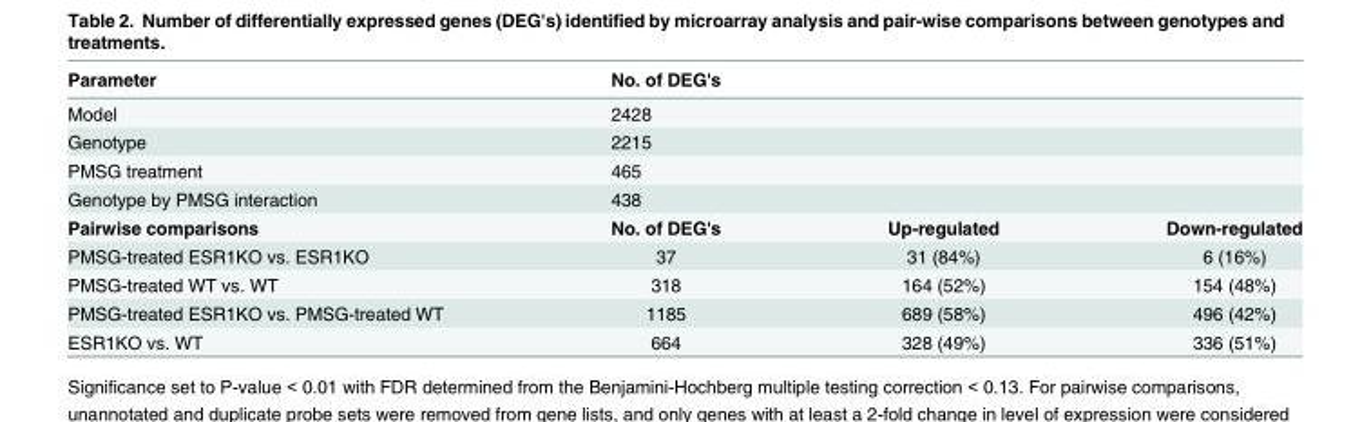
<table><thead><tr><td>Parameter</td><td>No. of DEG&#x27;s</td><td></td><td></td></tr></thead><tbody><tr><td>Model</td><td>2428</td><td></td><td></td></tr><tr><td>Genotype</td><td>2215</td><td></td><td></td></tr><tr><td>PMSG treatment</td><td>465</td><td></td><td></td></tr><tr><td>Genotype by PMSG interaction</td><td>438</td><td></td><td></td></tr><tr><td>Pairwise comparisons</td><td>No. of DEG&#x27;s</td><td>Up-regulated</td><td>Down-regulated</td></tr><tr><td>PMSG-treated ESR1KO vs. ESR1KO</td><td>37</td><td>31 (84%)</td><td>6 (16%)</td></tr><tr><td>PMSG-treated WT vs. WT</td><td>318</td><td>164 (52%)</td><td>154 (48%)</td></tr><tr><td>PMSG-treated ESR1KO vs. PMSG-treated WT</td><td>1185</td><td>689 (58%)</td><td>496 (42%)</td></tr><tr><td>ESR1KO vs. WT</td><td>664</td><td>328 (49%)</td><td>336 (51%)</td></tr></tbody></table>